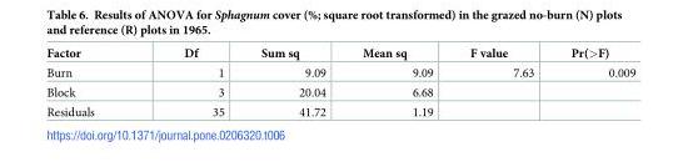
<table><thead><tr><td>Factor</td><td>Df</td><td>Sum sq</td><td>Mean sq</td><td>F value</td><td>Pr(&gt;F)</td></tr></thead><tbody><tr><td>Burn</td><td>1</td><td>9.09</td><td>9.09</td><td>7.63</td><td>0.009</td></tr><tr><td>Block</td><td>3</td><td>20.04</td><td>6.68</td><td></td><td></td></tr><tr><td>Residuals</td><td>35</td><td>41.72</td><td>1.19</td><td></td><td></td></tr></tbody></table>